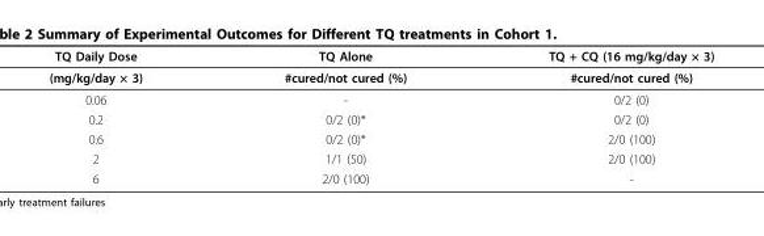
<table><thead><tr><td>TQ Daily Dose</td><td>TQ Alone</td><td>TQ + CQ (16 mg/kg/day × 3)</td></tr></thead><tbody><tr><td>(mg/kg/day × 3)</td><td>#cured/not cured (%)</td><td>#cured/not cured (%)</td></tr><tr><td>0.06</td><td>-</td><td>0/2 (0)</td></tr><tr><td>0.2</td><td>0/2 (0)*</td><td>0/2 (0)</td></tr><tr><td>0.6</td><td>0/2 (0)*</td><td>2/0 (100)</td></tr><tr><td>2</td><td>1/1 (50)</td><td>2/0 (100)</td></tr><tr><td>6</td><td>2/0 (100)</td><td>-</td></tr></tbody></table>